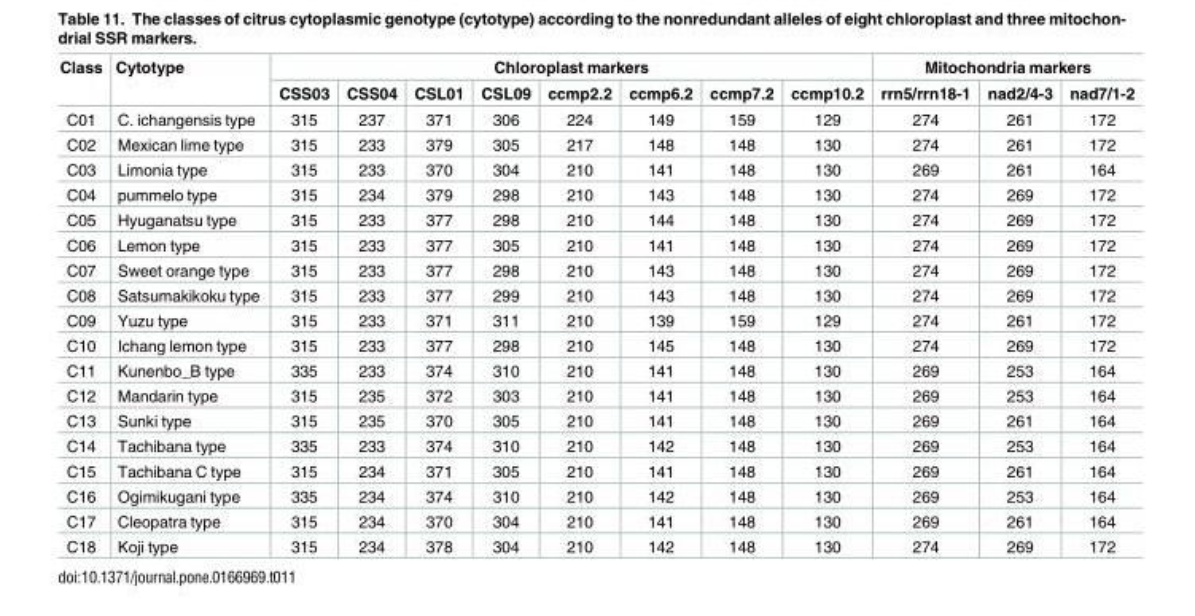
<table><thead><tr><td rowspan="2">Class</td><td rowspan="2">Cytotype</td><td colspan="8">Chloroplast markers</td><td colspan="3">Mitochondria markers</td></tr><tr><td>CSS03</td><td>CSS04</td><td>CSL01</td><td>CSL09</td><td>ccmp2.2</td><td>ccmp6.2</td><td>ccmp7.2</td><td>ccmp10.2</td><td>rrn5/rrn18-1</td><td>nad2/4-3</td><td>nad7/1-2</td></tr></thead><tbody><tr><td>C01</td><td>C. ichangensis type</td><td>315</td><td>237</td><td>371</td><td>306</td><td>224</td><td>149</td><td>159</td><td>129</td><td>274</td><td>261</td><td>172</td></tr><tr><td>C02</td><td>Mexican lime type</td><td>315</td><td>233</td><td>379</td><td>305</td><td>217</td><td>148</td><td>148</td><td>130</td><td>274</td><td>261</td><td>172</td></tr><tr><td>C03</td><td>Limonia type</td><td>315</td><td>233</td><td>370</td><td>304</td><td>210</td><td>141</td><td>148</td><td>130</td><td>269</td><td>261</td><td>164</td></tr><tr><td>C04</td><td>pummelo type</td><td>315</td><td>234</td><td>379</td><td>298</td><td>210</td><td>143</td><td>148</td><td>130</td><td>274</td><td>269</td><td>172</td></tr><tr><td>C05</td><td>Hyuganatsu type</td><td>315</td><td>233</td><td>377</td><td>298</td><td>210</td><td>144</td><td>148</td><td>130</td><td>274</td><td>269</td><td>172</td></tr><tr><td>C06</td><td>Lemon type</td><td>315</td><td>233</td><td>377</td><td>305</td><td>210</td><td>141</td><td>148</td><td>130</td><td>274</td><td>269</td><td>172</td></tr><tr><td>C07</td><td>Sweet orange type</td><td>315</td><td>233</td><td>377</td><td>298</td><td>210</td><td>143</td><td>148</td><td>130</td><td>274</td><td>269</td><td>172</td></tr><tr><td>C08</td><td>Satsumakikoku type</td><td>315</td><td>233</td><td>377</td><td>299</td><td>210</td><td>143</td><td>148</td><td>130</td><td>274</td><td>269</td><td>172</td></tr><tr><td>C09</td><td>Yuzu type</td><td>315</td><td>233</td><td>371</td><td>311</td><td>210</td><td>139</td><td>159</td><td>129</td><td>274</td><td>261</td><td>172</td></tr><tr><td>C10</td><td>Ichang lemon type</td><td>315</td><td>233</td><td>377</td><td>298</td><td>210</td><td>145</td><td>148</td><td>130</td><td>274</td><td>269</td><td>172</td></tr><tr><td>C11</td><td>Kunenbo_B type</td><td>335</td><td>233</td><td>374</td><td>310</td><td>210</td><td>141</td><td>148</td><td>130</td><td>269</td><td>253</td><td>164</td></tr><tr><td>C12</td><td>Mandarin type</td><td>315</td><td>235</td><td>372</td><td>303</td><td>210</td><td>141</td><td>148</td><td>130</td><td>269</td><td>253</td><td>164</td></tr><tr><td>C13</td><td>Sunki type</td><td>315</td><td>235</td><td>370</td><td>305</td><td>210</td><td>141</td><td>148</td><td>130</td><td>269</td><td>261</td><td>164</td></tr><tr><td>C14</td><td>Tachibana type</td><td>335</td><td>233</td><td>374</td><td>310</td><td>210</td><td>142</td><td>148</td><td>130</td><td>269</td><td>253</td><td>164</td></tr><tr><td>C15</td><td>Tachibana C type</td><td>315</td><td>234</td><td>371</td><td>305</td><td>210</td><td>141</td><td>148</td><td>130</td><td>269</td><td>261</td><td>164</td></tr><tr><td>C16</td><td>Ogimikugani type</td><td>335</td><td>234</td><td>374</td><td>310</td><td>210</td><td>142</td><td>148</td><td>130</td><td>269</td><td>253</td><td>164</td></tr><tr><td>C17</td><td>Cleopatra type</td><td>315</td><td>234</td><td>370</td><td>304</td><td>210</td><td>141</td><td>148</td><td>130</td><td>269</td><td>261</td><td>164</td></tr><tr><td>C18</td><td>Koji type</td><td>315</td><td>234</td><td>378</td><td>304</td><td>210</td><td>142</td><td>148</td><td>130</td><td>274</td><td>269</td><td>172</td></tr></tbody></table>